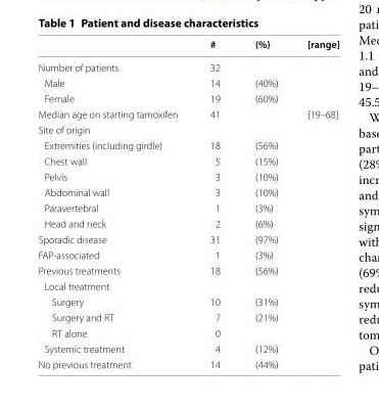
<table><thead><tr><td></td><td>#</td><td>(%)</td><td>[range]</td></tr></thead><tbody><tr><td>Number of patients</td><td>32</td><td></td><td></td></tr><tr><td>Male</td><td>14</td><td>(40%)</td><td></td></tr><tr><td>Female</td><td>19</td><td>(60%)</td><td></td></tr><tr><td>Median age on starting tamoxifen</td><td>41</td><td></td><td>[19–68]</td></tr><tr><td colspan="4">Site of origin</td></tr><tr><td>Extremities (including girdle)</td><td>18</td><td>(56%)</td><td></td></tr><tr><td>Chest wall</td><td>5</td><td>(15%)</td><td></td></tr><tr><td>Pelvis</td><td>3</td><td>(10%)</td><td></td></tr><tr><td>Abdominal wall</td><td>3</td><td>(10%)</td><td></td></tr><tr><td>Paravertebral</td><td>1</td><td>(3%)</td><td></td></tr><tr><td>Head and neck</td><td>2</td><td>(6%)</td><td></td></tr><tr><td>Sporadic disease</td><td>31</td><td>(97%)</td><td></td></tr><tr><td>FAP-associated</td><td>1</td><td>(3%)</td><td></td></tr><tr><td>Previous treatments</td><td>18</td><td>(56%)</td><td></td></tr><tr><td colspan="4">Local treatment</td></tr><tr><td>Surgery</td><td>10</td><td>(31%)</td><td></td></tr><tr><td>Surgery and RT</td><td>7</td><td>(21%)</td><td></td></tr><tr><td>RT alone</td><td>0</td><td></td><td></td></tr><tr><td>Systemic treatment</td><td>4</td><td>(12%)</td><td></td></tr><tr><td>No previous treatment</td><td>14</td><td>(44%)</td><td></td></tr></tbody></table>